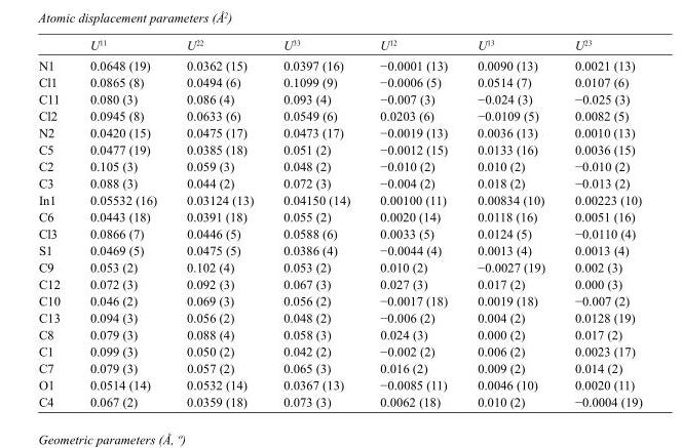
<table><thead><tr><td></td><td>U<sup>11</sup></td><td>U<sup>22</sup></td><td>U<sup>33</sup></td><td>U<sup>12</sup></td><td>U<sup>13</sup></td><td>U<sup>23</sup></td></tr></thead><tbody><tr><td>N1</td><td>0.0648 (19)</td><td>0.0362 (15)</td><td>0.0397 (16)</td><td>−0.0001 (13)</td><td>0.0090 (13)</td><td>0.0021 (13)</td></tr><tr><td>Cl1</td><td>0.0865 (8)</td><td>0.0494 (6)</td><td>0.1099 (9)</td><td>−0.0006 (5)</td><td>0.0514 (7)</td><td>0.0107 (6)</td></tr><tr><td>C11</td><td>0.080 (3)</td><td>0.086 (4)</td><td>0.093 (4)</td><td>−0.007 (3)</td><td>−0.024 (3)</td><td>−0.025 (3)</td></tr><tr><td>Cl2</td><td>0.0945 (8)</td><td>0.0633 (6)</td><td>0.0549 (6)</td><td>0.0203 (6)</td><td>−0.0109 (5)</td><td>0.0082 (5)</td></tr><tr><td>N2</td><td>0.0420 (15)</td><td>0.0475 (17)</td><td>0.0473 (17)</td><td>−0.0019 (13)</td><td>0.0036 (13)</td><td>0.0010 (13)</td></tr><tr><td>C5</td><td>0.0477 (19)</td><td>0.0385 (18)</td><td>0.051 (2)</td><td>−0.0012 (15)</td><td>0.0133 (16)</td><td>0.0036 (15)</td></tr><tr><td>C2</td><td>0.105 (3)</td><td>0.059 (3)</td><td>0.048 (2)</td><td>−0.010 (2)</td><td>0.010 (2)</td><td>−0.010 (2)</td></tr><tr><td>C3</td><td>0.088 (3)</td><td>0.044 (2)</td><td>0.072 (3)</td><td>−0.004 (2)</td><td>0.018 (2)</td><td>−0.013 (2)</td></tr><tr><td>In1</td><td>0.05532 (16)</td><td>0.03124 (13)</td><td>0.04150 (14)</td><td>0.00100 (11)</td><td>0.00834 (10)</td><td>0.00223 (10)</td></tr><tr><td>C6</td><td>0.0443 (18)</td><td>0.0391 (18)</td><td>0.055 (2)</td><td>0.0020 (14)</td><td>0.0118 (16)</td><td>0.0051 (16)</td></tr><tr><td>Cl3</td><td>0.0866 (7)</td><td>0.0446 (5)</td><td>0.0588 (6)</td><td>0.0033 (5)</td><td>0.0124 (5)</td><td>−0.0110 (4)</td></tr><tr><td>S1</td><td>0.0469 (5)</td><td>0.0475 (5)</td><td>0.0386 (4)</td><td>−0.0044 (4)</td><td>0.0013 (4)</td><td>0.0013 (4)</td></tr><tr><td>C9</td><td>0.053 (2)</td><td>0.102 (4)</td><td>0.053 (2)</td><td>0.010 (2)</td><td>−0.0027 (19)</td><td>0.002 (3)</td></tr><tr><td>C12</td><td>0.072 (3)</td><td>0.092 (3)</td><td>0.067 (3)</td><td>0.027 (3)</td><td>0.017 (2)</td><td>0.000 (3)</td></tr><tr><td>C10</td><td>0.046 (2)</td><td>0.069 (3)</td><td>0.056 (2)</td><td>−0.0017 (18)</td><td>0.0019 (18)</td><td>−0.007 (2)</td></tr><tr><td>C13</td><td>0.094 (3)</td><td>0.056 (2)</td><td>0.048 (2)</td><td>−0.006 (2)</td><td>0.004 (2)</td><td>0.0128 (19)</td></tr><tr><td>C8</td><td>0.079 (3)</td><td>0.088 (4)</td><td>0.058 (3)</td><td>0.024 (3)</td><td>0.000 (2)</td><td>0.017 (2)</td></tr><tr><td>C1</td><td>0.099 (3)</td><td>0.050 (2)</td><td>0.042 (2)</td><td>−0.002 (2)</td><td>0.006 (2)</td><td>0.0023 (17)</td></tr><tr><td>C7</td><td>0.079 (3)</td><td>0.057 (2)</td><td>0.065 (3)</td><td>0.016 (2)</td><td>0.009 (2)</td><td>0.014 (2)</td></tr><tr><td>O1</td><td>0.0514 (14)</td><td>0.0532 (14)</td><td>0.0367 (13)</td><td>−0.0085 (11)</td><td>0.0046 (10)</td><td>0.0020 (11)</td></tr><tr><td>C4</td><td>0.067 (2)</td><td>0.0359 (18)</td><td>0.073 (3)</td><td>0.0062 (18)</td><td>0.010 (2)</td><td>−0.0004 (19)</td></tr></tbody></table>